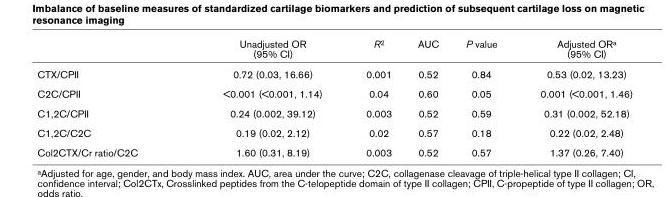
<table><thead><tr><td></td><td>Unadjusted OR (95% CI)</td><td>R<sup>2</sup></td><td>AUC</td><td>P value</td><td>Adjusted OR<sup>a</sup> (95% CI)</td></tr></thead><tbody><tr><td>CTX/CPII</td><td>0.72 (0.03, 16.66)</td><td>0.001</td><td>0.52</td><td>0.84</td><td>0.53 (0.02, 13.23)</td></tr><tr><td>C2C/CPII</td><td>&lt;0.001 (&lt;0.001, 1.14)</td><td>0.04</td><td>0.60</td><td>0.05</td><td>0.001 (&lt;0.001, 1.46)</td></tr><tr><td>C1,2C/CPII</td><td>0.24 (0.002, 39.12)</td><td>0.003</td><td>0.52</td><td>0.59</td><td>0.31 (0.002, 52.18)</td></tr><tr><td>C1,2C/C2C</td><td>0.19 (0.02, 2.12)</td><td>0.02</td><td>0.57</td><td>0.18</td><td>0.22 (0.02, 2.48)</td></tr><tr><td>Col2CTX/Cr ratio/C2C</td><td>1.60 (0.31, 8.19)</td><td>0.003</td><td>0.52</td><td>0.57</td><td>1.37 (0.26, 7.40)</td></tr></tbody></table>